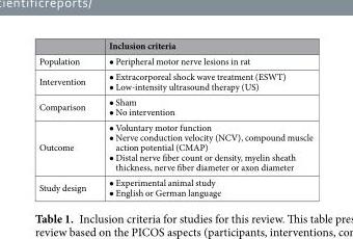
<table><thead><tr><td></td><td>Inclusion criteria</td></tr></thead><tbody><tr><td>Population</td><td>• Peripheral motor nerve lesions in rat</td></tr><tr><td>Intervention</td><td>• Extracorporeal shock wave treatment (ESWT) • Low-intensity ultrasound therapy (US)</td></tr><tr><td>Comparison</td><td>• Sham • No intervention</td></tr><tr><td>Outcome</td><td>• Voluntary motor function • Nerve conduction velocity (NCV), compound muscle action potential (CMAP) • Distal nerve fiber count or density, myelin sheath thickness, nerve fiber diameter or axon diameter</td></tr><tr><td>Study design</td><td>• Experimental animal study • English or German language</td></tr></tbody></table>